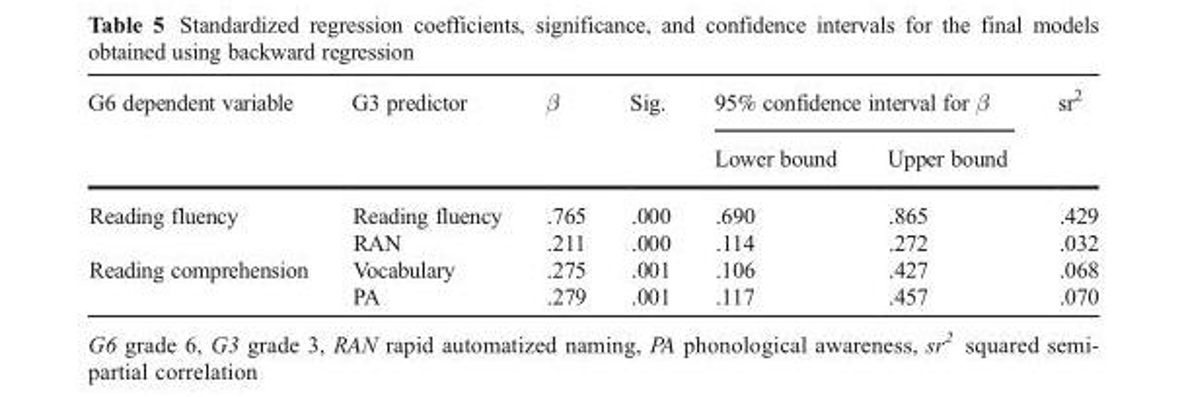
<table><thead><tr><td rowspan="2">G6 dependent variable</td><td rowspan="2">G3 predictor</td><td rowspan="2">β</td><td rowspan="2">Sig.</td><td colspan="2">95% confidence interval for β</td><td rowspan="2">sr<sup>2</sup></td></tr><tr><td>Lower bound</td><td>Upper bound</td></tr></thead><tbody><tr><td rowspan="2">Reading fluency</td><td>Reading fluency</td><td>.765</td><td>.000</td><td>.690</td><td>.865</td><td>.429</td></tr><tr><td>RAN</td><td>.211</td><td>.000</td><td>.114</td><td>.272</td><td>.032</td></tr><tr><td rowspan="2">Reading comprehension</td><td>Vocabulary</td><td>.275</td><td>.001</td><td>.106</td><td>.427</td><td>.068</td></tr><tr><td>PA</td><td>.279</td><td>.001</td><td>.117</td><td>.457</td><td>.070</td></tr></tbody></table>